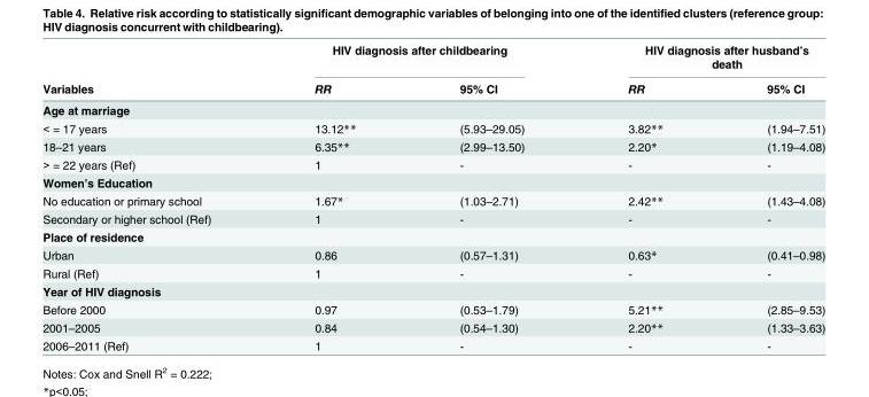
<table><thead><tr><td rowspan="2">Variables</td><td colspan="2">HIV diagnosis after childbearing</td><td colspan="2">HIV diagnosis after husband’s death</td></tr><tr><td>RR</td><td>95% CI</td><td>RR</td><td>95% CI</td></tr></thead><tbody><tr><td colspan="5">Age at marriage</td></tr><tr><td>&lt; = 17 years</td><td>13.12**</td><td>(5.93–29.05)</td><td>3.82**</td><td>(1.94–7.51)</td></tr><tr><td>18–21 years</td><td>6.35**</td><td>(2.99–13.50)</td><td>2.20*</td><td>(1.19–4.08)</td></tr><tr><td>&gt; = 22 years (Ref)</td><td>1</td><td>-</td><td>-</td><td>-</td></tr><tr><td colspan="5">Women’s Education</td></tr><tr><td>No education or primary school</td><td>1.67*</td><td>(1.03–2.71)</td><td>2.42**</td><td>(1.43–4.08)</td></tr><tr><td>Secondary or higher school (Ref)</td><td>1</td><td>-</td><td>-</td><td>-</td></tr><tr><td colspan="5">Place of residence</td></tr><tr><td>Urban</td><td>0.86</td><td>(0.57–1.31)</td><td>0.63*</td><td>(0.41–0.98)</td></tr><tr><td>Rural (Ref)</td><td>1</td><td>-</td><td>-</td><td>-</td></tr><tr><td colspan="5">Year of HIV diagnosis</td></tr><tr><td>Before 2000</td><td>0.97</td><td>(0.53–1.79)</td><td>5.21**</td><td>(2.85–9.53)</td></tr><tr><td>2001–2005</td><td>0.84</td><td>(0.54–1.30)</td><td>2.20**</td><td>(1.33–3.63)</td></tr><tr><td>2006–2011 (Ref)</td><td>1</td><td>-</td><td>-</td><td>-</td></tr></tbody></table>